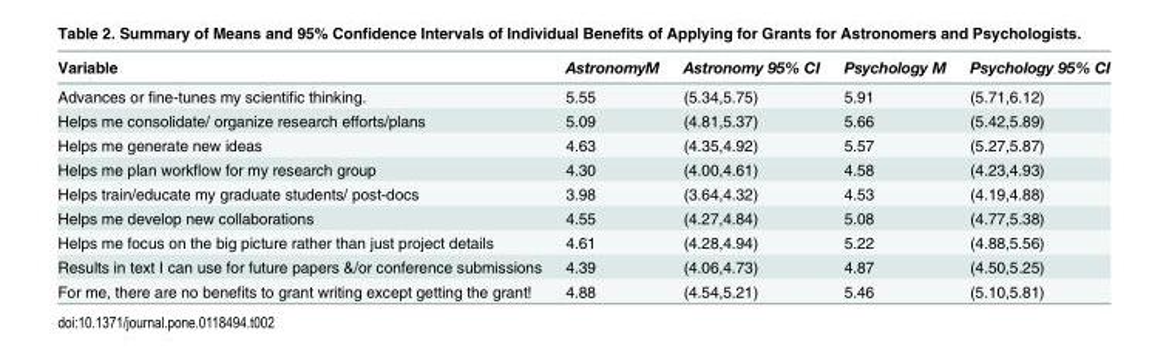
<table><thead><tr><td>Variable</td><td>AstronomyM</td><td>Astronomy 95% CI</td><td>Psychology M</td><td>Psychology 95% CI</td></tr></thead><tbody><tr><td>Advances or fine-tunes my scientific thinking.</td><td>5.55</td><td>(5.34,5.75)</td><td>5.91</td><td>(5.71,6.12)</td></tr><tr><td>Helps me consolidate/ organize research efforts/plans</td><td>5.09</td><td>(4.81,5.37)</td><td>5.66</td><td>(5.42,5.89)</td></tr><tr><td>Helps me generate new ideas</td><td>4.63</td><td>(4.35,4.92)</td><td>5.57</td><td>(5.27,5.87)</td></tr><tr><td>Helps me plan workflow for my research group</td><td>4.30</td><td>(4.00,4.61)</td><td>4.58</td><td>(4.23,4.93)</td></tr><tr><td>Helps train/educate my graduate students/ post-docs</td><td>3.98</td><td>(3.64,4.32)</td><td>4.53</td><td>(4.19,4.88)</td></tr><tr><td>Helps me develop new collaborations</td><td>4.55</td><td>(4.27,4.84)</td><td>5.08</td><td>(4.77,5.38)</td></tr><tr><td>Helps me focus on the big picture rather than just project details</td><td>4.61</td><td>(4.28,4.94)</td><td>5.22</td><td>(4.88,5.56)</td></tr><tr><td>Results in text I can use for future papers &amp;/or conference submissions</td><td>4.39</td><td>(4.06,4.73)</td><td>4.87</td><td>(4.50,5.25)</td></tr><tr><td>For me, there are no benefits to grant writing except getting the grant!</td><td>4.88</td><td>(4.54,5.21)</td><td>5.46</td><td>(5.10,5.81)</td></tr></tbody></table>